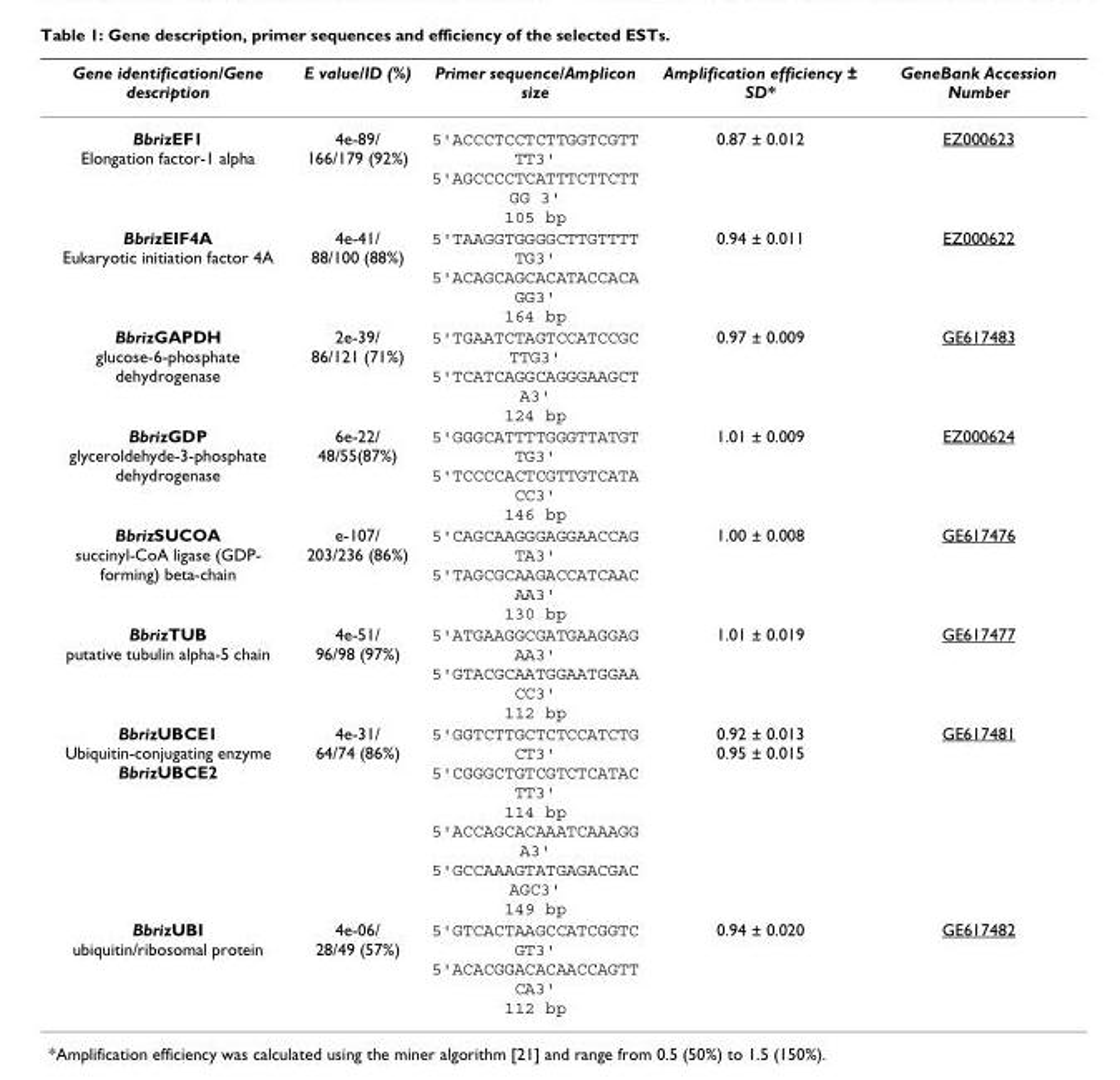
<table><thead><tr><td>Gene identification/Gene description</td><td>E value/ID (%)</td><td>Primer sequence/Amplicon size</td><td>Amplification efficiency ± SD*</td><td>GeneBank Accession Number</td></tr></thead><tbody><tr><td>BbrizEF1 Elongation factor-1 alpha</td><td>4e-89/ 166/179 (92%)</td><td>5&#x27;ACCCTCCTCTTGGTCGTT TT3&#x27; 5&#x27;AGCCCCTCATTTCTTCTT GG 3&#x27; 105 bp</td><td>0.87 ± 0.012</td><td>EZ000623</td></tr><tr><td>BbrizEIF4A Eukaryotic initiation factor 4A</td><td>4e-41/ 88/100 (88%)</td><td>5&#x27;TAAGGTGGGGCTTGTTTT TG3&#x27; 5&#x27;ACAGCAGCACATACCACA GG3&#x27; 164 bp</td><td>0.94 ± 0.011</td><td>EZ000622</td></tr><tr><td>BbrizGAPDH glucose-6-phosphate dehydrogenase</td><td>2e-39/ 86/121 (71%)</td><td>5&#x27;TGAATCTAGTCCATCCGC TTG3&#x27; 5&#x27;TCATCAGGCAGGGAAGCT A3&#x27; 124 bp</td><td>0.97 ± 0.009</td><td>GE617483</td></tr><tr><td>BbrizGDP glyceroldehyde-3-phosphate dehydrogenase</td><td>6e-22/ 48/55(87%)</td><td>5&#x27;GGGCATTTTGGGTTATGT TG3&#x27; 5&#x27;TCCCCACTCGTTGTCATA CC3&#x27; 146 bp</td><td>1.01 ± 0.009</td><td>EZ000624</td></tr><tr><td>BbrizSUCOA succinyl-CoA ligase (GDP- forming) beta-chain</td><td>e-107/ 203/236 (86%)</td><td>5&#x27;CAGCAAGGGAGGAACCAG TA3&#x27; 5&#x27;TAGCGCAAGACCATCAAC AA3&#x27; 130 bp</td><td>1.00 ± 0.008</td><td>GE617476</td></tr><tr><td>BbrizTUB putative tubulin alpha-5 chain</td><td>4e-51/ 96/98 (97%)</td><td>5&#x27;ATGAAGGCGATGAAGGAG AA3&#x27; 5&#x27;GTACGCAATGGAATGGAA CC3&#x27; 112 bp</td><td>1.01 ± 0.019</td><td>GE617477</td></tr><tr><td>BbrizUBCE1 Ubiquitin-conjugating enzyme BbrizUBCE2</td><td>4e-31/ 64/74 (86%)</td><td>5&#x27;GGTCTTGCTCTCCATCTG CT3&#x27; 5&#x27;CGGGCTGTCGTCTCATAC TT3&#x27; 114 bp 5&#x27;ACCAGCACAAATCAAAGG A3&#x27; 5&#x27;GCCAAAGTATGAGACGAC AGC3&#x27; 149 bp</td><td>0.92 ± 0.013 0.95 ± 0.015</td><td>GE617481</td></tr><tr><td>BbrizUBI ubiquitin/ribosomal protein</td><td>4e-06/ 28/49 (57%)</td><td>5&#x27;GTCACTAAGCCATCGGTC GT3&#x27; 5&#x27;ACACGGACACAACCAGTT CA3&#x27; 112 bp</td><td>0.94 ± 0.020</td><td>GE617482</td></tr></tbody></table>